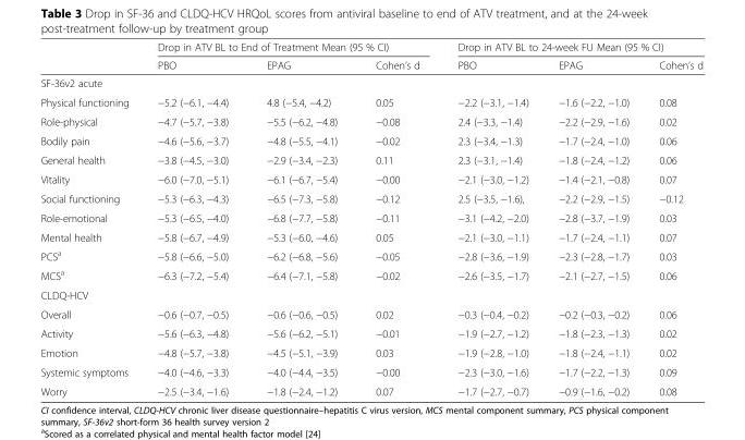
<table><thead><tr><td rowspan="2"></td><td colspan="3">Drop in ATV BL to End of Treatment Mean (95 % CI)</td><td colspan="3">Drop in ATV BL to 24-week FU Mean (95 % CI)</td></tr><tr><td>PBO</td><td>EPAG</td><td>Cohen’s d</td><td>PBO</td><td>EPAG</td><td>Cohen’s d</td></tr></thead><tbody><tr><td colspan="7">SF-36v2 acute</td></tr><tr><td>Physical functioning</td><td>−5.2 (−6.1, −4.4)</td><td>4.8 (−5.4, −4.2)</td><td>0.05</td><td>−2.2 (−3.1, −1.4)</td><td>−1.6 (−2.2, −1.0)</td><td>0.08</td></tr><tr><td>Role-physical</td><td>−4.7 (−5.7, −3.8)</td><td>−5.5 (−6.2, −4.8)</td><td>−0.08</td><td>2.4 (−3.3, −1.4)</td><td>−2.2 (−2.9, −1.6)</td><td>0.02</td></tr><tr><td>Bodily pain</td><td>−4.6 (−5.6, −3.7)</td><td>−4.8 (−5.5, −4.1)</td><td>−0.02</td><td>2.3 (−3.4, −1.3)</td><td>−1.7 (−2.4, −1.0)</td><td>0.06</td></tr><tr><td>General health</td><td>−3.8 (−4.5, −3.0)</td><td>−2.9 (−3.4, −2.3)</td><td>0.11</td><td>2.3 (−3.1, −1.4)</td><td>−1.8 (−2.4, −1.2)</td><td>0.06</td></tr><tr><td>Vitality</td><td>−6.0 (−7.0, −5.1)</td><td>−6.1 (−6.7, −5.4)</td><td>−0.00</td><td>−2.1 (−3.0, −1.2)</td><td>−1.4 (−2.1, −0.8)</td><td>0.07</td></tr><tr><td>Social functioning</td><td>−5.3 (−6.3, −4.3)</td><td>−6.5 (−7.3, −5.8)</td><td>−0.12</td><td>2.5 (−3.5, −1.6),</td><td>−2.2 (−2.9, −1.5)</td><td>−0.12</td></tr><tr><td>Role-emotional</td><td>−5.3 (−6.5, −4.0)</td><td>−6.8 (−7.7, −5.8)</td><td>−0.11</td><td>−3.1 (−4.2, −2.0)</td><td>−2.8 (−3.7, −1.9)</td><td>0.03</td></tr><tr><td>Mental health</td><td>−5.8 (−6.7, −4.9)</td><td>−5.3 (−6.0, −4.6)</td><td>0.05</td><td>−2.1 (−3.0, −1.1)</td><td>−1.7 (−2.4, −1.1)</td><td>0.07</td></tr><tr><td>PCS<sup>a</sup></td><td>−5.8 (−6.6, −5.0)</td><td>−6.2 (−6.8, −5.6)</td><td>−0.05</td><td>−2.8 (−3.6, −1.9)</td><td>−2.3 (−2.8, −1.7)</td><td>0.03</td></tr><tr><td>MCS<sup>a</sup></td><td>−6.3 (−7.2, −5.4)</td><td>−6.4 (−7.1, −5.8)</td><td>−0.02</td><td>−2.6 (−3.5, −1.7)</td><td>−2.1 (−2.7, −1.5)</td><td>0.06</td></tr><tr><td colspan="7">CLDQ-HCV</td></tr><tr><td>Overall</td><td>−0.6 (−0.7, −0.5)</td><td>−0.6 (−0.6, −0.5)</td><td>0.02</td><td>−0.3 (−0.4, −0.2)</td><td>−0.2 (−0.3, −0.2)</td><td>0.06</td></tr><tr><td>Activity</td><td>−5.6 (−6.3, −4.8)</td><td>−5.6 (−6.2, −5.1)</td><td>−0.01</td><td>−1.9 (−2.7, −1.2)</td><td>−1.8 (−2.3, −1.3)</td><td>0.02</td></tr><tr><td>Emotion</td><td>−4.8 (−5.7, −3.8)</td><td>−4.5 (−5.1, −3.9)</td><td>0.03</td><td>−1.9 (−2.8, −1.0)</td><td>−1.8 (−2.4, −1.1)</td><td>0.02</td></tr><tr><td>Systemic symptoms</td><td>−4.0 (−4.6, −3.3)</td><td>−4.0 (−4.4, −3.5)</td><td>−0.00</td><td>−2.3 (−3.0, −1.6)</td><td>−1.7 (−2.2, −1.3)</td><td>0.09</td></tr><tr><td>Worry</td><td>−2.5 (−3.4, −1.6)</td><td>−1.8 (−2.4, −1.2)</td><td>0.07</td><td>−1.7 (−2.7, −0.7)</td><td>−0.9 (−1.6, −0.2)</td><td>0.08</td></tr></tbody></table>